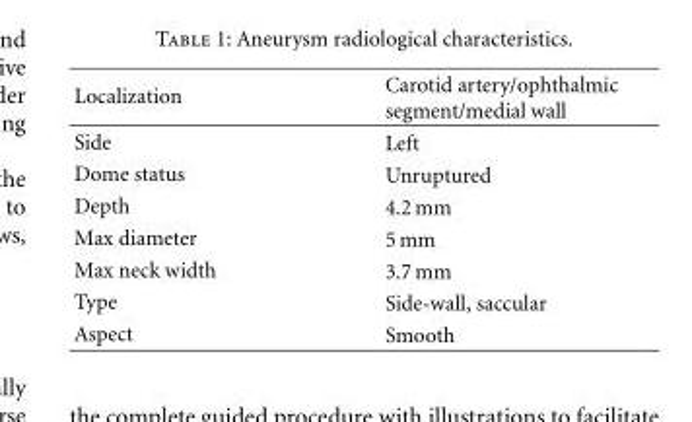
<table><thead><tr><td>Localization</td><td>Carotid artery/ophthalmic segment/medial wall</td></tr></thead><tbody><tr><td>Side</td><td>Left</td></tr><tr><td>Dome status</td><td>Unruptured</td></tr><tr><td>Depth</td><td>4.2 mm</td></tr><tr><td>Max diameter</td><td>5 mm</td></tr><tr><td>Max neck width</td><td>3.7 mm</td></tr><tr><td>Type</td><td>Side-wall, saccular</td></tr><tr><td>Aspect</td><td>Smooth</td></tr></tbody></table>